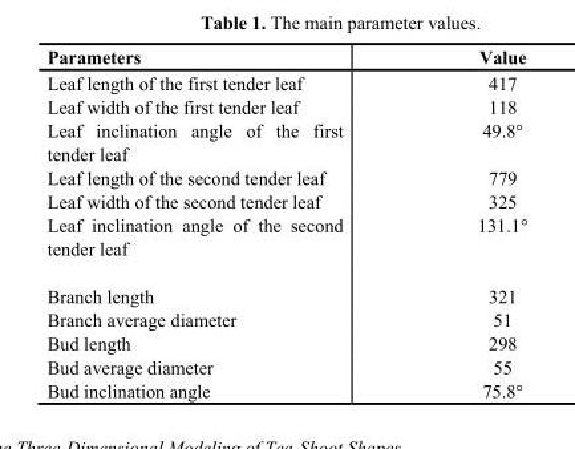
<table><thead><tr><td>Parameters</td><td>Value</td></tr></thead><tbody><tr><td>Leaf length of the first tender leaf</td><td>417</td></tr><tr><td>Leaf width of the first tender leaf</td><td>118</td></tr><tr><td>Leaf inclination angle of the first tender leaf</td><td>49.8°</td></tr><tr><td>Leaf length of the second tender leaf</td><td>779</td></tr><tr><td>Leaf width of the second tender leaf</td><td>325</td></tr><tr><td>Leaf inclination angle of the second tender leaf</td><td>131.1°</td></tr><tr><td>Branch length</td><td>321</td></tr><tr><td>Branch average diameter</td><td>51</td></tr><tr><td>Bud length</td><td>298</td></tr><tr><td>Bud average diameter</td><td>55</td></tr><tr><td>Bud inclination angle</td><td>75.8°</td></tr></tbody></table>